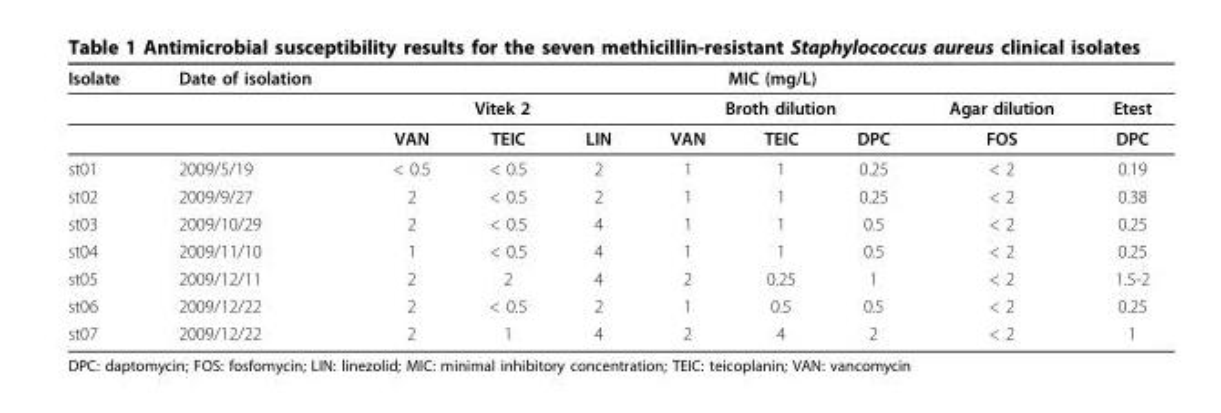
<table><thead><tr><td rowspan="3">Isolate</td><td rowspan="3">Date of isolation</td><td colspan="8">MIC (mg/L)</td></tr><tr><td colspan="3">Vitek 2</td><td colspan="3">Broth dilution</td><td rowspan="2">Agar dilution FOS</td><td rowspan="2">Etest DPC</td></tr><tr><td>VAN</td><td>TEIC</td><td>LIN</td><td>VAN</td><td>TEIC</td><td>DPC</td></tr></thead><tbody><tr><td>st01</td><td>2009/5/19</td><td>&lt; 0.5</td><td>&lt; 0.5</td><td>2</td><td>1</td><td>1</td><td>0.25</td><td>&lt; 2</td><td>0.19</td></tr><tr><td>st02</td><td>2009/9/27</td><td>2</td><td>&lt; 0.5</td><td>2</td><td>1</td><td>1</td><td>0.25</td><td>&lt; 2</td><td>0.38</td></tr><tr><td>st03</td><td>2009/10/29</td><td>2</td><td>&lt; 0.5</td><td>4</td><td>1</td><td>1</td><td>0.5</td><td>&lt; 2</td><td>0.25</td></tr><tr><td>st04</td><td>2009/11/10</td><td>1</td><td>&lt; 0.5</td><td>4</td><td>1</td><td>1</td><td>0.5</td><td>&lt; 2</td><td>0.25</td></tr><tr><td>st05</td><td>2009/12/11</td><td>2</td><td>2</td><td>4</td><td>2</td><td>0.25</td><td>1</td><td>&lt; 2</td><td>1.5-2</td></tr><tr><td>st06</td><td>2009/12/22</td><td>2</td><td>&lt; 0.5</td><td>2</td><td>1</td><td>0.5</td><td>0.5</td><td>&lt; 2</td><td>0.25</td></tr><tr><td>st07</td><td>2009/12/22</td><td>2</td><td>1</td><td>4</td><td>2</td><td>4</td><td>2</td><td>&lt; 2</td><td>1</td></tr></tbody></table>